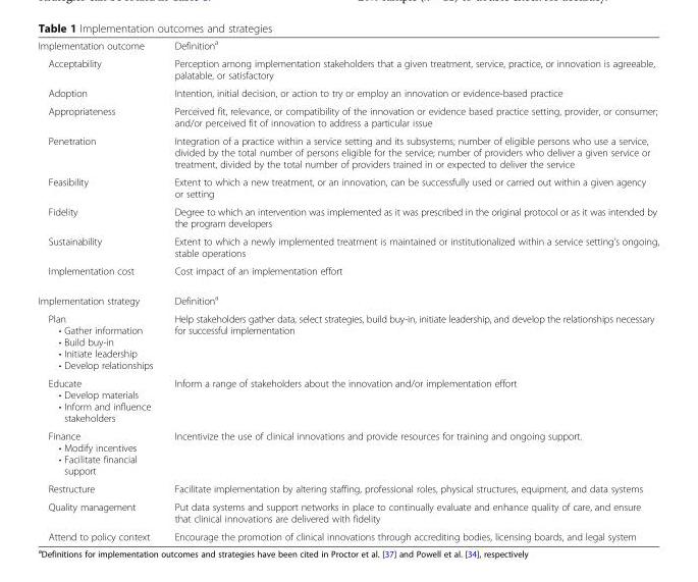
<table><tbody><tr><td>Implementation outcome</td><td>Definition<sup>a</sup></td></tr><tr><td>Acceptability</td><td>Perception among implementation stakeholders that a given treatment, service, practice, or innovation is agreeable, palatable, or satisfactory</td></tr><tr><td>Adoption</td><td>Intention, initial decision, or action to try or employ an innovation or evidence-based practice</td></tr><tr><td>Appropriateness</td><td>Perceived fit, relevance, or compatibility of the innovation or evidence based practice setting, provider, or consumer; and/or perceived fit of innovation to address a particular issue</td></tr><tr><td>Penetration</td><td>Integration of a practice within a service setting and its subsystems; number of eligible persons who use a service, divided by the total number of persons eligible for the service; number of providers who deliver a given service or treatment, divided by the total number of providers trained in or expected to deliver the service</td></tr><tr><td>Feasibility</td><td>Extent to which a new treatment, or an innovation, can be successfully used or carried out within a given agency or setting</td></tr><tr><td>Fidelity</td><td>Degree to which an intervention was implemented as it was prescribed in the original protocol or as it was intended by the program developers</td></tr><tr><td>Sustainability</td><td>Extent to which a newly implemented treatment is maintained or institutionalized within a service setting’s ongoing, stable operations</td></tr><tr><td>Implementation cost</td><td>Cost impact of an implementation effort</td></tr><tr><td>Implementation strategy</td><td>Definition<sup>a</sup></td></tr><tr><td>Plan • Gather information • Build buy-in • Initiate leadership • Develop relationships</td><td>Help stakeholders gather data, select strategies, build buy-in, initiate leadership, and develop the relationships necessary for successful implementation</td></tr><tr><td>Educate • Develop materials • Inform and influence stakeholders</td><td>Inform a range of stakeholders about the innovation and/or implementation effort</td></tr><tr><td>Finance • Modify incentives • Facilitate financial support</td><td>Incentivize the use of clinical innovations and provide resources for training and ongoing support.</td></tr><tr><td>Restructure</td><td>Facilitate implementation by altering staffing, professional roles, physical structures, equipment, and data systems</td></tr><tr><td>Quality management</td><td>Put data systems and support networks in place to continually evaluate and enhance quality of care, and ensure that clinical innovations are delivered with fidelity</td></tr><tr><td>Attend to policy context</td><td>Encourage the promotion of clinical innovations through accrediting bodies, licensing boards, and legal system</td></tr></tbody></table>